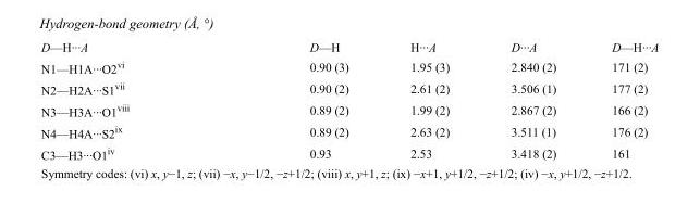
<table><tbody><tr><td>D—H···A</td><td>D—H</td><td>H···A</td><td>D···A</td><td>D—H···A</td></tr><tr><td>N1—H1A···O2<sup>vi</sup></td><td>0.90 (3)</td><td>1.95 (3)</td><td>2.840 (2)</td><td>171 (2)</td></tr><tr><td>N2—H2A···S1<sup>vii</sup></td><td>0.90 (2)</td><td>2.61 (2)</td><td>3.506 (1)</td><td>177 (2)</td></tr><tr><td>N3—H3A···O1<sup>viii</sup></td><td>0.89 (2)</td><td>1.99 (2)</td><td>2.867 (2)</td><td>166 (2)</td></tr><tr><td>N4—H4A···S2<sup>ix</sup></td><td>0.89 (2)</td><td>2.63 (2)</td><td>3.511 (1)</td><td>176 (2)</td></tr><tr><td>C3—H3···O1<sup>iv</sup></td><td>0.93</td><td>2.53</td><td>3.418 (2)</td><td>161</td></tr></tbody></table>